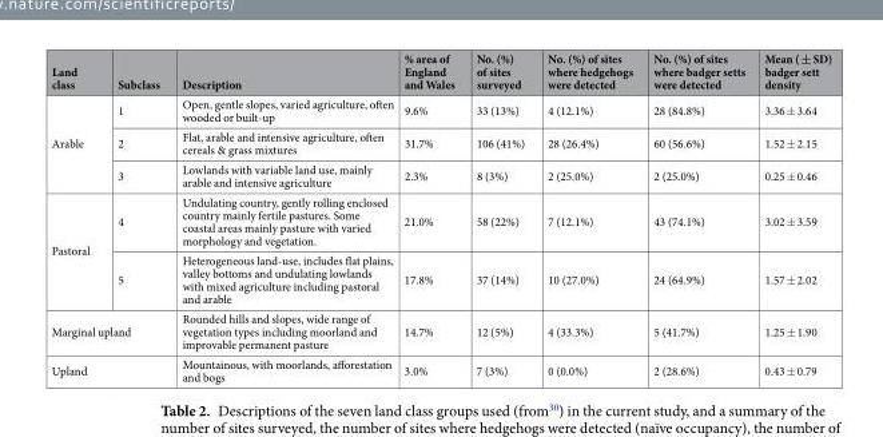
<table><thead><tr><td>Land class</td><td>Subclass</td><td>Description</td><td>% area of England and Wales</td><td>No. (%) of sites surveyed</td><td>No. (%) of sites where hedgehogs were detected</td><td>No. (%) of sites where badger setts were detected</td><td>Mean ( ± SD) badger sett density</td></tr></thead><tbody><tr><td rowspan="3">Arable</td><td>1</td><td>Open, gentle slopes, varied agriculture, often wooded or built-up</td><td>9.6%</td><td>33 (13%)</td><td>4 (12.1%)</td><td>28 (84.8%)</td><td>3.36 ± 3.64</td></tr><tr><td>2</td><td>Flat, arable and intensive agriculture, often cereals &amp; grass mixtures</td><td>31.7%</td><td>106 (41%)</td><td>28 (26.4%)</td><td>60 (56.6%)</td><td>1.52 ± 2.15</td></tr><tr><td>3</td><td>Lowlands with variable land use, mainly arable and intensive agriculture</td><td>2.3%</td><td>8 (3%)</td><td>2 (25.0%)</td><td>2 (25.0%)</td><td>0.25 ± 0.46</td></tr><tr><td rowspan="2">Pastoral</td><td>4</td><td>Undulating country, gently rolling enclosed country mainly fertile pastures. Some coastal areas mainly pasture with varied morphology and vegetation.</td><td>21.0%</td><td>58 (22%)</td><td>7 (12.1%)</td><td>43 (74.1%)</td><td>3.02 ± 3.59</td></tr><tr><td>5</td><td>Heterogeneous land-use, includes flat plains, valley bottoms and undulating lowlands with mixed agriculture including pastoral and arable</td><td>17.8%</td><td>37 (14%)</td><td>10 (27.0%)</td><td>24 (64.9%)</td><td>1.57 ± 2.02</td></tr><tr><td colspan="2">Marginal upland</td><td>Rounded hills and slopes, wide range of vegetation types including moorland and improvable permanent pasture</td><td>14.7%</td><td>12 (5%)</td><td>4 (33.3%)</td><td>5 (41.7%)</td><td>1.25 ± 1.90</td></tr><tr><td colspan="2">Upland</td><td>Mountainous, with moorlands, afforestation and bogs</td><td>3.0%</td><td>7 (3%)</td><td>0 (0.0%)</td><td>2 (28.6%)</td><td>0.43 ± 0.79</td></tr></tbody></table>